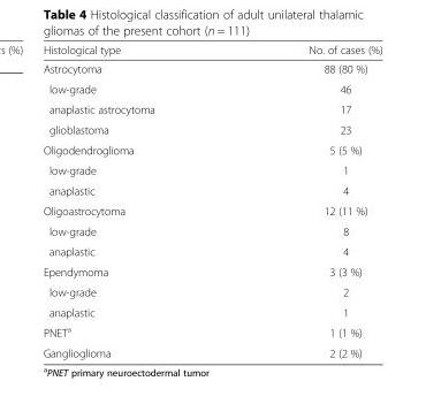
<table><thead><tr><td>Histological type</td><td>No. of cases (%)</td></tr></thead><tbody><tr><td>Astrocytoma</td><td>88 (80 %)</td></tr><tr><td>low-grade</td><td>46</td></tr><tr><td>anaplastic astrocytoma</td><td>17</td></tr><tr><td>glioblastoma</td><td>23</td></tr><tr><td>Oligodendroglioma</td><td>5 (5 %)</td></tr><tr><td>low-grade</td><td>1</td></tr><tr><td>anaplastic</td><td>4</td></tr><tr><td>Oligoastrocytoma</td><td>12 (11 %)</td></tr><tr><td>low-grade</td><td>8</td></tr><tr><td>anaplastic</td><td>4</td></tr><tr><td>Ependymoma</td><td>3 (3 %)</td></tr><tr><td>low-grade</td><td>2</td></tr><tr><td>anaplastic</td><td>1</td></tr><tr><td>PNET<sup>a</sup></td><td>1 (1 %)</td></tr><tr><td>Ganglioglioma</td><td>2 (2 %)</td></tr></tbody></table>